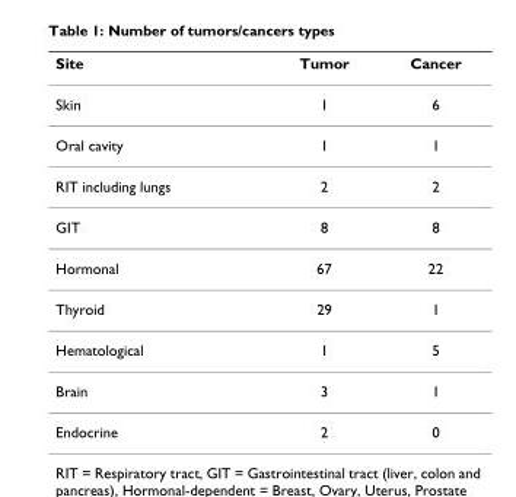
<table><thead><tr><td>Site</td><td>Tumor</td><td>Cancer</td></tr></thead><tbody><tr><td>Skin</td><td>1</td><td>6</td></tr><tr><td>Oral cavity</td><td>1</td><td>1</td></tr><tr><td>RIT including lungs</td><td>2</td><td>2</td></tr><tr><td>GIT</td><td>8</td><td>8</td></tr><tr><td>Hormonal</td><td>67</td><td>22</td></tr><tr><td>Thyroid</td><td>29</td><td>1</td></tr><tr><td>Hematological</td><td>1</td><td>5</td></tr><tr><td>Brain</td><td>3</td><td>1</td></tr><tr><td>Endocrine</td><td>2</td><td>0</td></tr></tbody></table>